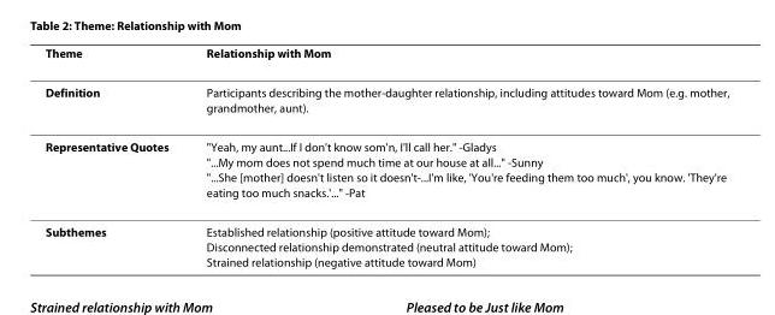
<table><thead><tr><td>Theme</td><td>Relationship with Mom</td></tr></thead><tbody><tr><td>Definition</td><td>Participants describing the mother-daughter relationship, including attitudes toward Mom (e.g. mother, grandmother, aunt).</td></tr><tr><td>Representative Quotes</td><td>&quot;Yeah, my aunt...If I don&#x27;t know som&#x27;n, I&#x27;ll call her.&quot; -Gladys &quot;...My mom does not spend much time at our house at all...&quot; -Sunny &quot;...She [mother] doesn&#x27;t listen so it doesn&#x27;t-...I&#x27;m like, &#x27;You&#x27;re feeding them too much&#x27;, you know. &#x27;They&#x27;re eating too much snacks.&#x27;...&quot; -Pat</td></tr><tr><td>Subthemes</td><td>Established relationship (positive attitude toward Mom); Disconnected relationship demonstrated (neutral attitude toward Mom); Strained relationship (negative attitude toward Mom)</td></tr></tbody></table>